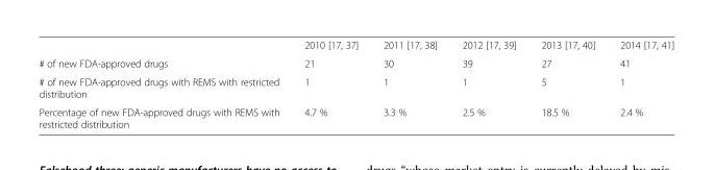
<table><thead><tr><td></td><td>2010 [17, 37]</td><td>2011 [17, 38]</td><td>2012 [17, 39]</td><td>2013 [17, 40]</td><td>2014 [17, 41]</td></tr></thead><tbody><tr><td># of new FDA-approved drugs</td><td>21</td><td>30</td><td>39</td><td>27</td><td>41</td></tr><tr><td># of new FDA-approved drugs with REMS with restricted distribution</td><td>1</td><td>1</td><td>1</td><td>5</td><td>1</td></tr><tr><td>Percentage of new FDA-approved drugs with REMS with restricted distribution</td><td>4.7 %</td><td>3.3 %</td><td>2.5 %</td><td>18.5 %</td><td>2.4 %</td></tr></tbody></table>